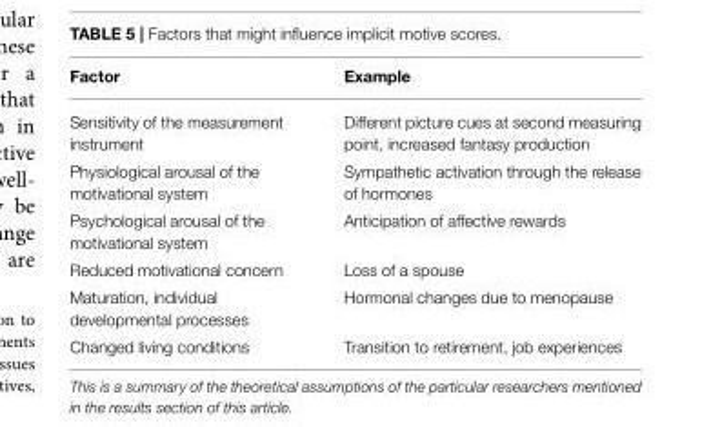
<table><thead><tr><td>Factor</td><td>Example</td></tr></thead><tbody><tr><td>Sensitivity of the measurement instrument</td><td>Different picture cues at second measuring point, increased fantasy production</td></tr><tr><td>Physiological arousal of the motivational system</td><td>Sympathetic activation through the release of hormones</td></tr><tr><td>Psychological arousal of the motivational system</td><td>Anticipation of affective rewards</td></tr><tr><td>Reduced motivational concern</td><td>Loss of a spouse</td></tr><tr><td>Maturation, individual developmental processes</td><td>Hormonal changes due to menopause</td></tr><tr><td>Changed living conditions</td><td>Transition to retirement, job experiences</td></tr></tbody></table>